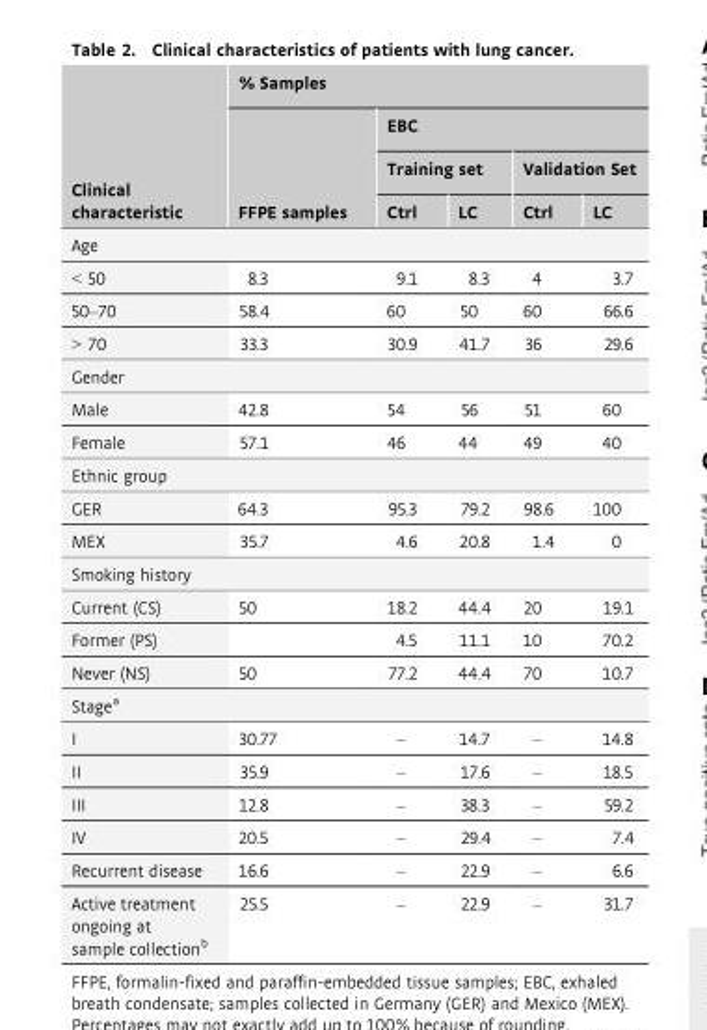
<table><thead><tr><td rowspan="4">Clinical characteristic</td><td colspan="5">% Samples</td></tr><tr><td rowspan="3">FFPE samples</td><td colspan="4">EBC</td></tr><tr><td colspan="2">Training set</td><td colspan="2">Validation Set</td></tr><tr><td>Ctrl</td><td>LC</td><td>Ctrl</td><td>LC</td></tr></thead><tbody><tr><td colspan="6">Age</td></tr><tr><td>&lt; 50</td><td>8.3</td><td>9.1</td><td>8.3</td><td>4</td><td>3.7</td></tr><tr><td>50–70</td><td>58.4</td><td>60</td><td>50</td><td>60</td><td>66.6</td></tr><tr><td>&gt; 70</td><td>33.3</td><td>30.9</td><td>41.7</td><td>36</td><td>29.6</td></tr><tr><td colspan="6">Gender</td></tr><tr><td>Male</td><td>42.8</td><td>54</td><td>56</td><td>51</td><td>60</td></tr><tr><td>Female</td><td>57.1</td><td>46</td><td>44</td><td>49</td><td>40</td></tr><tr><td colspan="6">Ethnic group</td></tr><tr><td>GER</td><td>64.3</td><td>95.3</td><td>79.2</td><td>98.6</td><td>100</td></tr><tr><td>MEX</td><td>35.7</td><td>4.6</td><td>20.8</td><td>1.4</td><td>0</td></tr><tr><td colspan="6">Smoking history</td></tr><tr><td>Current (CS)</td><td>50</td><td>18.2</td><td>44.4</td><td>20</td><td>19.1</td></tr><tr><td>Former (PS)</td><td></td><td>4.5</td><td>11.1</td><td>10</td><td>70.2</td></tr><tr><td>Never (NS)</td><td>50</td><td>77.2</td><td>44.4</td><td>70</td><td>10.7</td></tr><tr><td colspan="6">Stage<sup>a</sup></td></tr><tr><td>I</td><td>30.77</td><td>–</td><td>14.7</td><td>–</td><td>14.8</td></tr><tr><td>II</td><td>35.9</td><td>–</td><td>17.6</td><td>–</td><td>18.5</td></tr><tr><td>III</td><td>12.8</td><td>–</td><td>38.3</td><td>–</td><td>59.2</td></tr><tr><td>IV</td><td>20.5</td><td>–</td><td>29.4</td><td>–</td><td>7.4</td></tr><tr><td>Recurrent disease</td><td>16.6</td><td>–</td><td>22.9</td><td>–</td><td>6.6</td></tr><tr><td>Active treatment ongoing at sample collection<sup>b</sup></td><td>25.5</td><td>–</td><td>22.9</td><td>–</td><td>31.7</td></tr></tbody></table>